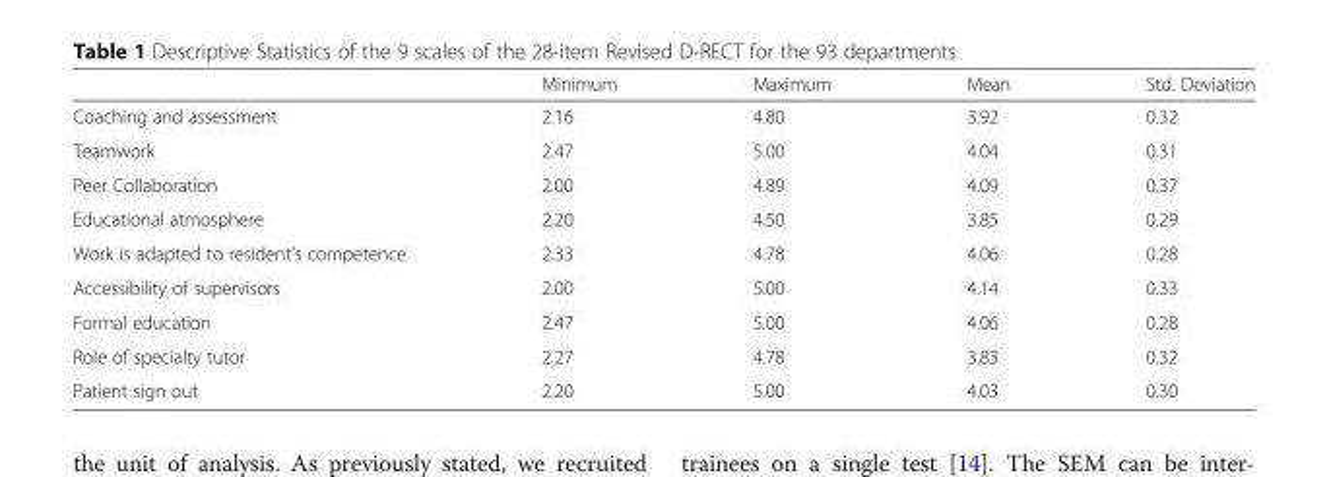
<table><thead><tr><td></td><td>Minimum</td><td>Maximum</td><td>Mean</td><td>Std. Deviation</td></tr></thead><tbody><tr><td>Coaching and assessment</td><td>2.16</td><td>4.80</td><td>3.92</td><td>0.32</td></tr><tr><td>Teamwork</td><td>2.47</td><td>5.00</td><td>4.04</td><td>0.31</td></tr><tr><td>Peer Collaboration</td><td>2.00</td><td>4.89</td><td>4.09</td><td>0.37</td></tr><tr><td>Educational atmosphere</td><td>2.20</td><td>4.50</td><td>3.85</td><td>0.29</td></tr><tr><td>Work is adapted to resident’s competence</td><td>2.33</td><td>4.78</td><td>4.06</td><td>0.28</td></tr><tr><td>Accessibility of supervisors</td><td>2.00</td><td>5.00</td><td>4.14</td><td>0.33</td></tr><tr><td>Formal education</td><td>2.47</td><td>5.00</td><td>4.06</td><td>0.28</td></tr><tr><td>Role of specialty tutor</td><td>2.27</td><td>4.78</td><td>3.83</td><td>0.32</td></tr><tr><td>Patient sign out</td><td>2.20</td><td>5.00</td><td>4.03</td><td>0.30</td></tr></tbody></table>